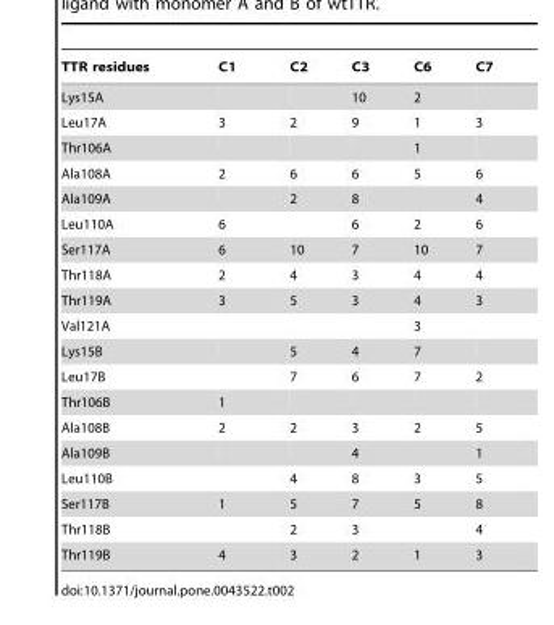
<table><thead><tr><td>TTR residues</td><td>C1</td><td>C2</td><td>C3</td><td>C6</td><td>C7</td></tr></thead><tbody><tr><td>Lys15A</td><td></td><td></td><td>10</td><td>2</td><td></td></tr><tr><td>Leu17A</td><td>3</td><td>2</td><td>9</td><td>1</td><td>3</td></tr><tr><td>Thr106A</td><td></td><td></td><td></td><td>1</td><td></td></tr><tr><td>Ala108A</td><td>2</td><td>6</td><td>6</td><td>5</td><td>6</td></tr><tr><td>Ala109A</td><td></td><td>2</td><td>8</td><td></td><td>4</td></tr><tr><td>Leu110A</td><td>6</td><td></td><td>6</td><td>2</td><td>6</td></tr><tr><td>Ser117A</td><td>6</td><td>10</td><td>7</td><td>10</td><td>7</td></tr><tr><td>Thr118A</td><td>2</td><td>4</td><td>3</td><td>4</td><td>4</td></tr><tr><td>Thr119A</td><td>3</td><td>5</td><td>3</td><td>4</td><td>3</td></tr><tr><td>Val121A</td><td></td><td></td><td></td><td>3</td><td></td></tr><tr><td>Lys15B</td><td></td><td>5</td><td>4</td><td>7</td><td></td></tr><tr><td>Leu17B</td><td></td><td>7</td><td>6</td><td>7</td><td>2</td></tr><tr><td>Thr106B</td><td>1</td><td></td><td></td><td></td><td></td></tr><tr><td>Ala108B</td><td>2</td><td>2</td><td>3</td><td>2</td><td>5</td></tr><tr><td>Ala109B</td><td></td><td></td><td>4</td><td></td><td>1</td></tr><tr><td>Leu110B</td><td></td><td>4</td><td>8</td><td>3</td><td>5</td></tr><tr><td>Ser117B</td><td>1</td><td>5</td><td>7</td><td>5</td><td>8</td></tr><tr><td>Thr118B</td><td></td><td>2</td><td>3</td><td></td><td>4</td></tr><tr><td>Thr119B</td><td>4</td><td>3</td><td>2</td><td>1</td><td>3</td></tr></tbody></table>